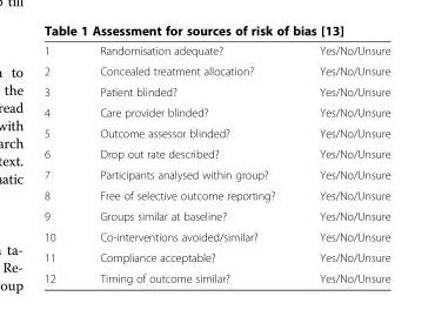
<table><tbody><tr><td>1</td><td>Randomisation adequate?</td><td>Yes/No/Unsure</td></tr><tr><td>2</td><td>Concealed treatment allocation?</td><td>Yes/No/Unsure</td></tr><tr><td>3</td><td>Patient blinded?</td><td>Yes/No/Unsure</td></tr><tr><td>4</td><td>Care provider blinded?</td><td>Yes/No/Unsure</td></tr><tr><td>5</td><td>Outcome assessor blinded?</td><td>Yes/No/Unsure</td></tr><tr><td>6</td><td>Drop out rate described?</td><td>Yes/No/Unsure</td></tr><tr><td>7</td><td>Participants analysed within group?</td><td>Yes/No/Unsure</td></tr><tr><td>8</td><td>Free of selective outcome reporting?</td><td>Yes/No/Unsure</td></tr><tr><td>9</td><td>Groups similar at baseline?</td><td>Yes/No/Unsure</td></tr><tr><td>10</td><td>Co-interventions avoided/similar?</td><td>Yes/No/Unsure</td></tr><tr><td>11</td><td>Compliance acceptable?</td><td>Yes/No/Unsure</td></tr><tr><td>12</td><td>Timing of outcome similar?</td><td>Yes/No/Unsure</td></tr></tbody></table>